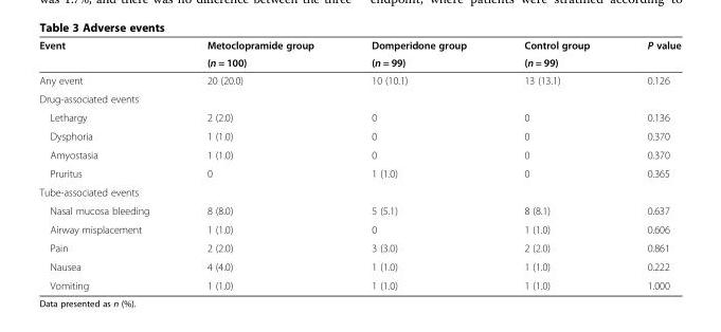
<table><thead><tr><td rowspan="2">Event</td><td rowspan="2">Metoclopramide group (n = 100)</td><td rowspan="2">Domperidone group (n = 99)</td><td rowspan="2">Control group (n = 99)</td><td rowspan="2">P value</td></tr><tr></tr></thead><tbody><tr><td>Any event</td><td>20 (20.0)</td><td>10 (10.1)</td><td>13 (13.1)</td><td>0.126</td></tr><tr><td colspan="5">Drug-associated events</td></tr><tr><td>Lethargy</td><td>2 (2.0)</td><td>0</td><td>0</td><td>0.136</td></tr><tr><td>Dysphoria</td><td>1 (1.0)</td><td>0</td><td>0</td><td>0.370</td></tr><tr><td>Amyostasia</td><td>1 (1.0)</td><td>0</td><td>0</td><td>0.370</td></tr><tr><td>Pruritus</td><td>0</td><td>1 (1.0)</td><td>0</td><td>0.365</td></tr><tr><td colspan="5">Tube-associated events</td></tr><tr><td>Nasal mucosa bleeding</td><td>8 (8.0)</td><td>5 (5.1)</td><td>8 (8.1)</td><td>0.637</td></tr><tr><td>Airway misplacement</td><td>1 (1.0)</td><td>0</td><td>1 (1.0)</td><td>0.606</td></tr><tr><td>Pain</td><td>2 (2.0)</td><td>3 (3.0)</td><td>2 (2.0)</td><td>0.861</td></tr><tr><td>Nausea</td><td>4 (4.0)</td><td>1 (1.0)</td><td>1 (1.0)</td><td>0.222</td></tr><tr><td>Vomiting</td><td>1 (1.0)</td><td>1 (1.0)</td><td>1 (1.0)</td><td>1.000</td></tr></tbody></table>